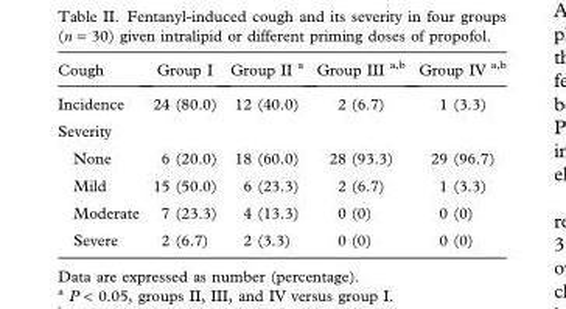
<table><thead><tr><td>Cough</td><td>Group I</td><td>Group II <sup>a</sup></td><td>Group III <sup>a,b</sup></td><td>Group IV <sup>a,b</sup></td></tr></thead><tbody><tr><td>Incidence</td><td>24 (80.0)</td><td>12 (40.0)</td><td>2 (6.7)</td><td>1 (3.3)</td></tr><tr><td colspan="5">Severity</td></tr><tr><td>None</td><td>6 (20.0)</td><td>18 (60.0)</td><td>28 (93.3)</td><td>29 (96.7)</td></tr><tr><td>Mild</td><td>15 (50.0)</td><td>6 (23.3)</td><td>2 (6.7)</td><td>1 (3.3)</td></tr><tr><td>Moderate</td><td>7 (23.3)</td><td>4 (13.3)</td><td>0 (0)</td><td>0 (0)</td></tr><tr><td>Severe</td><td>2 (6.7)</td><td>2 (3.3)</td><td>0 (0)</td><td>0 (0)</td></tr></tbody></table>